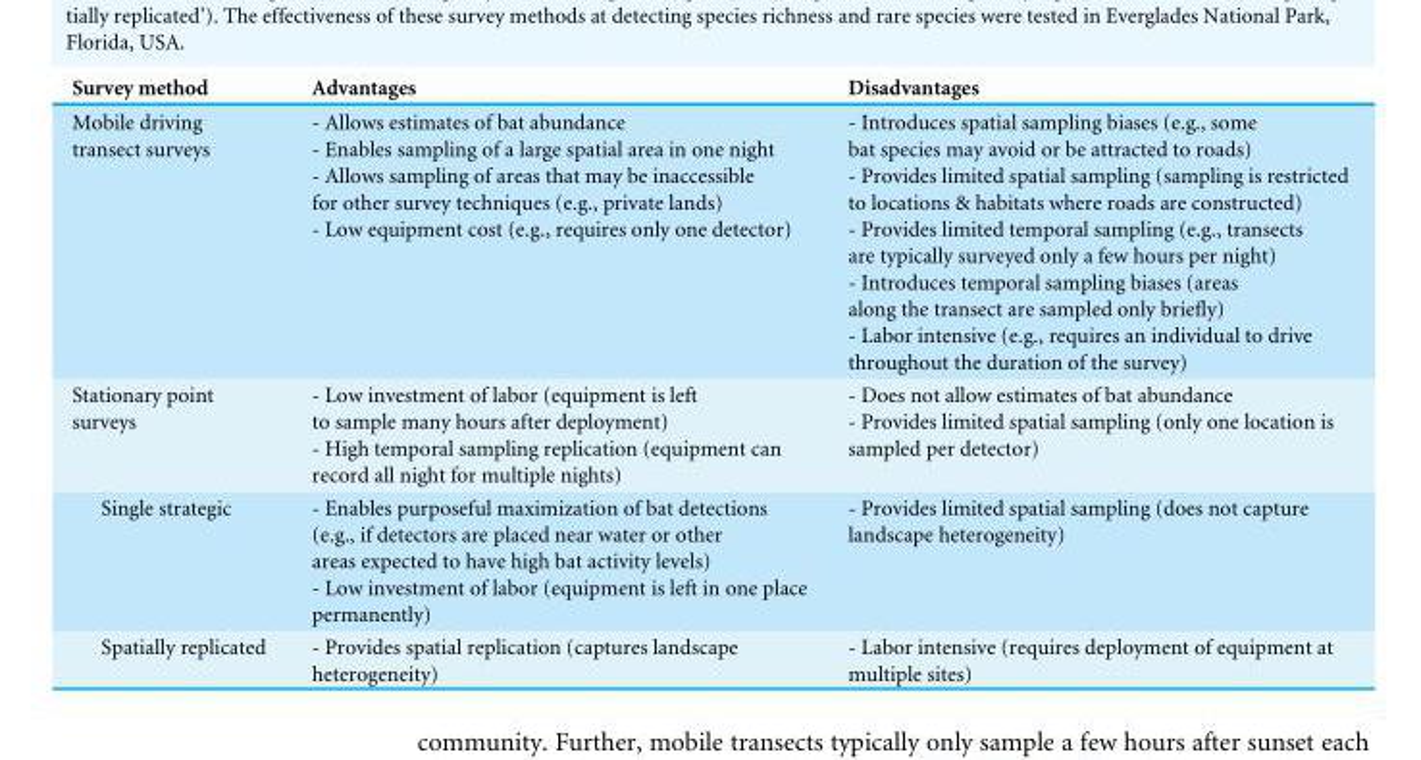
<table><thead><tr><td>Survey method</td><td>Advantages</td><td>Disadvantages</td></tr></thead><tbody><tr><td>Mobile driving transect surveys</td><td>- Allows estimates of bat abundance - Enables sampling of a large spatial area in one night - Allows sampling of areas that may be inaccessible for other survey techniques (e.g., private lands) - Low equipment cost (e.g., requires only one detector)</td><td>- Introduces spatial sampling biases (e.g., some bat species may avoid or be attracted to roads) - Provides limited spatial sampling (sampling is restricted to locations &amp; habitats where roads are constructed) - Provides limited temporal sampling (e.g., transects are typically surveyed only a few hours per night) - Introduces temporal sampling biases (areas along the transect are sampled only briefly) - Labor intensive (e.g., requires an individual to drive throughout the duration of the survey)</td></tr><tr><td>Stationary point surveys</td><td>- Low investment of labor (equipment is left to sample many hours after deployment) - High temporal sampling replication (equipment can record all night for multiple nights)</td><td>- Does not allow estimates of bat abundance - Provides limited spatial sampling (only one location is sampled per detector)</td></tr><tr><td>Single strategic</td><td>- Enables purposeful maximization of bat detections (e.g., if detectors are placed near water or other areas expected to have high bat activity levels) - Low investment of labor (equipment is left in one place permanently)</td><td>- Provides limited spatial sampling (does not capture landscape heterogeneity)</td></tr><tr><td>Spatially replicated</td><td>- Provides spatial replication (captures landscape heterogeneity)</td><td>- Labor intensive (requires deployment of equipment at multiple sites)</td></tr></tbody></table>